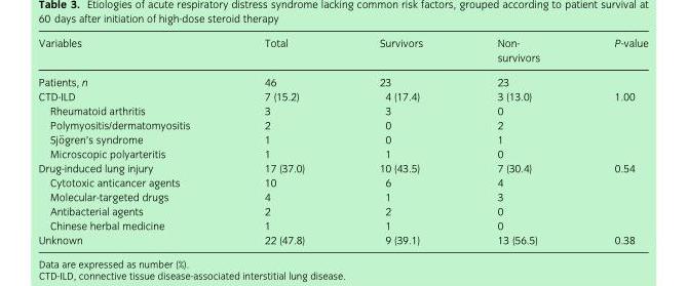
<table><thead><tr><td>Variables</td><td>Total</td><td>Survivors</td><td>Non- survivors</td><td>P-value</td></tr></thead><tbody><tr><td>Patients, n</td><td>46</td><td>23</td><td>23</td><td></td></tr><tr><td>CTD-ILD</td><td>7 (15.2)</td><td>4 (17.4)</td><td>3 (13.0)</td><td rowspan="5">1.00</td></tr><tr><td>Rheumatoid arthritis</td><td>3</td><td>3</td><td>0</td></tr><tr><td>Polymyositis/dermatomyositis</td><td>2</td><td>0</td><td>2</td></tr><tr><td>Sj€ogren’s syndrome</td><td>1</td><td>0</td><td>1</td></tr><tr><td>Microscopic polyarteritis</td><td>1</td><td>1</td><td>0</td></tr><tr><td>Drug-induced lung injury</td><td>17 (37.0)</td><td>10 (43.5)</td><td>7 (30.4)</td><td rowspan="5">0.54</td></tr><tr><td>Cytotoxic anticancer agents</td><td>10</td><td>6</td><td>4</td></tr><tr><td>Molecular-targeted drugs</td><td>4</td><td>1</td><td>3</td></tr><tr><td>Antibacterial agents</td><td>2</td><td>2</td><td>0</td></tr><tr><td>Chinese herbal medicine</td><td>1</td><td>1</td><td>0</td></tr><tr><td>Unknown</td><td>22 (47.8)</td><td>9 (39.1)</td><td>13 (56.5)</td><td>0.38</td></tr></tbody></table>